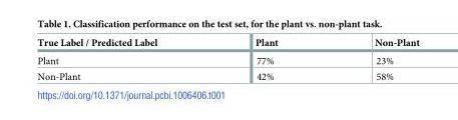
<table><thead><tr><td>True Label / Predicted Label</td><td>Plant</td><td>Non-Plant</td></tr></thead><tbody><tr><td>Plant</td><td>77%</td><td>23%</td></tr><tr><td>Non-Plant</td><td>42%</td><td>58%</td></tr></tbody></table>